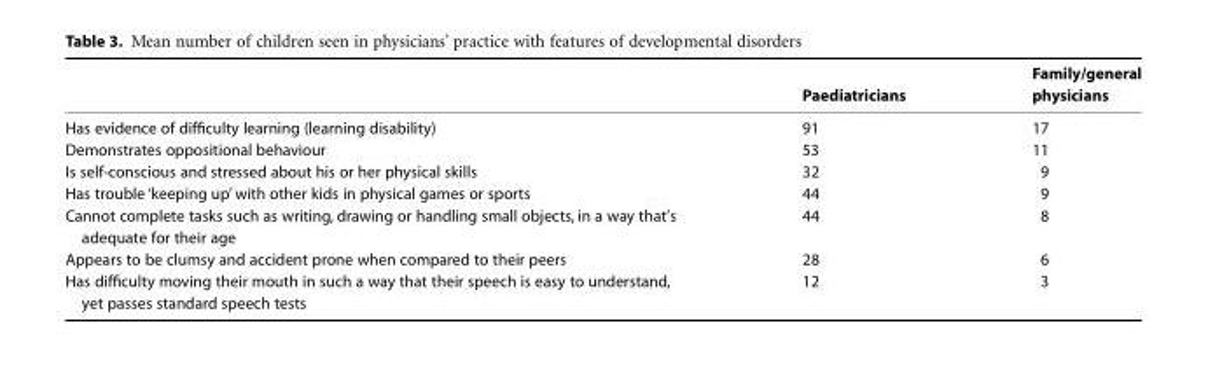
<table><thead><tr><td></td><td>Paediatricians</td><td>Family/general physicians</td></tr></thead><tbody><tr><td>Has evidence of difficulty learning (learning disability)</td><td>91</td><td>17</td></tr><tr><td>Demonstrates oppositional behaviour</td><td>53</td><td>11</td></tr><tr><td>Is self-conscious and stressed about his or her physical skills</td><td>32</td><td>9</td></tr><tr><td>Has trouble ‘keeping up’ with other kids in physical games or sports</td><td>44</td><td>9</td></tr><tr><td>Cannot complete tasks such as writing, drawing or handling small objects, in a way that’s adequate for their age</td><td>44</td><td>8</td></tr><tr><td>Appears to be clumsy and accident prone when compared to their peers</td><td>28</td><td>6</td></tr><tr><td>Has difficulty moving their mouth in such a way that their speech is easy to understand, yet passes standard speech tests</td><td>12</td><td>3</td></tr></tbody></table>